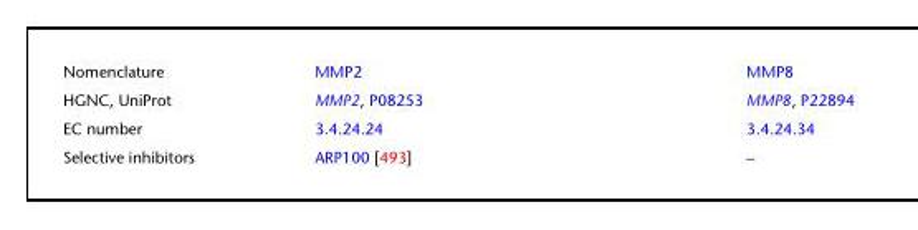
<table><tbody><tr><td>Nomenclature</td><td>MMP2</td><td>MMP8</td></tr><tr><td>HGNC, UniProt</td><td>MMP2, P08253</td><td>MMP8, P22894</td></tr><tr><td>EC number</td><td>3.4.24.24</td><td>3.4.24.34</td></tr><tr><td>Selective inhibitors</td><td>ARP100 [493]</td><td>–</td></tr></tbody></table>